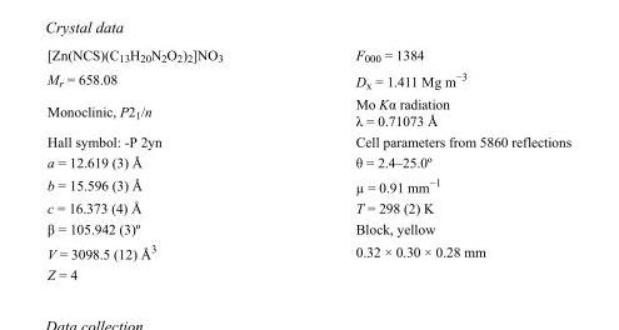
<table><tbody><tr><td>[Zn(NCS)(C<sub>13</sub>H<sub>20</sub>N<sub>2</sub>O<sub>2</sub>)<sub>2</sub>]NO<sub>3</sub></td><td>F000 = 1384</td></tr><tr><td>M<sub>r</sub> = 658.08</td><td>D<sub>x</sub> = 1.411 Mg m<sup>−3</sup></td></tr><tr><td>Monoclinic, P2<sub>1</sub>/n</td><td>Mo Kα radiation λ = 0.71073 Å</td></tr><tr><td>Hall symbol: -P 2yn</td><td>Cell parameters from 5860 reflections</td></tr><tr><td>a = 12.619 (3) Å</td><td>θ = 2.4–25.0º</td></tr><tr><td>b = 15.596 (3) Å</td><td>µ = 0.91 mm<sup>−1</sup></td></tr><tr><td>c = 16.373 (4) Å</td><td>T = 298 (2) K</td></tr><tr><td>β = 105.942 (3)º</td><td>Block, yellow</td></tr><tr><td>V = 3098.5 (12) Å<sup>3</sup></td><td>0.32 × 0.30 × 0.28 mm</td></tr><tr><td>Z = 4</td><td></td></tr></tbody></table>